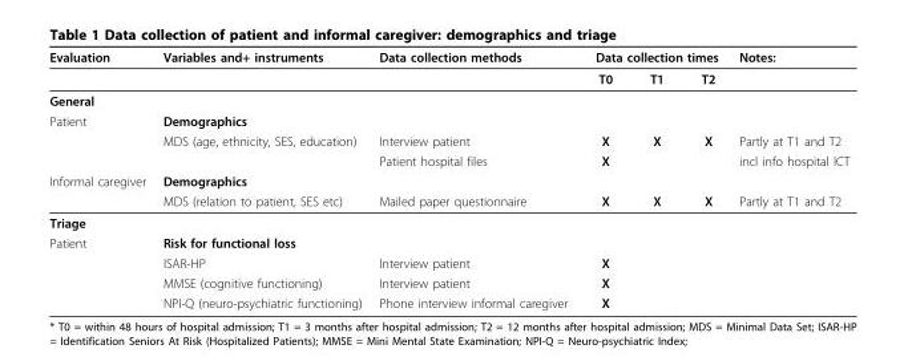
<table><thead><tr><td rowspan="2">Evaluation</td><td rowspan="2">Variables and+ instruments</td><td rowspan="2">Data collection methods</td><td colspan="3">Data collection times</td><td rowspan="2">Notes:</td></tr><tr><td>T0</td><td>T1</td><td>T2</td></tr></thead><tbody><tr><td colspan="7">General</td></tr><tr><td rowspan="3">Patient</td><td>Demographics</td><td></td><td></td><td></td><td></td><td></td></tr><tr><td>MDS (age, ethnicity, SES, education)</td><td>Interview patient</td><td>X</td><td>X</td><td>X</td><td>Partly at T1 and T2</td></tr><tr><td></td><td>Patient hospital files</td><td>X</td><td></td><td></td><td>incl info hospital ICT</td></tr><tr><td rowspan="2">Informal caregiver</td><td>Demographics</td><td></td><td></td><td></td><td></td><td></td></tr><tr><td>MDS (relation to patient, SES etc)</td><td>Mailed paper questionnaire</td><td>X</td><td>X</td><td>X</td><td>Partly at T1 and T2</td></tr><tr><td colspan="7">Triage</td></tr><tr><td rowspan="4">Patient</td><td>Risk for functional loss</td><td></td><td></td><td></td><td></td><td></td></tr><tr><td>ISAR-HP</td><td>Interview patient</td><td>X</td><td></td><td></td><td></td></tr><tr><td>MMSE (cognitive functioning)</td><td>Interview patient</td><td>X</td><td></td><td></td><td></td></tr><tr><td>NPI-Q (neuro-psychiatric functioning)</td><td>Phone interview informal caregiver</td><td>X</td><td></td><td></td><td></td></tr></tbody></table>